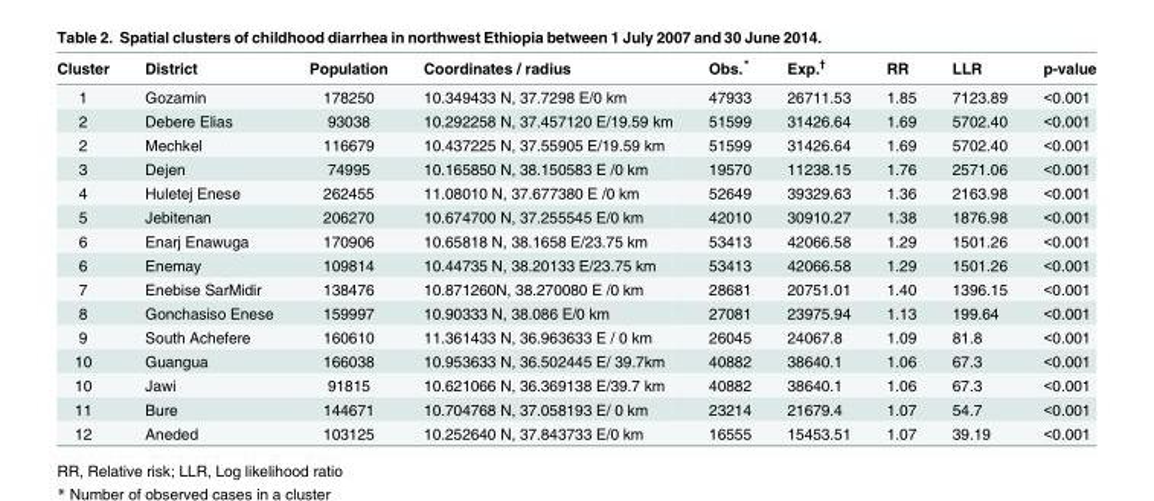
<table><thead><tr><td>Cluster</td><td>District</td><td>Population</td><td>Coordinates / radius</td><td>Obs.*</td><td>Exp.<sup>†</sup></td><td>RR</td><td>LLR</td><td>p-value</td></tr></thead><tbody><tr><td>1</td><td>Gozamin</td><td>178250</td><td>10.349433 N, 37.7298 E/0 km</td><td>47933</td><td>26711.53</td><td>1.85</td><td>7123.89</td><td>&lt;0.001</td></tr><tr><td>2</td><td>Debere Elias</td><td>93038</td><td>10.292258 N, 37.457120 E/19.59 km</td><td>51599</td><td>31426.64</td><td>1.69</td><td>5702.40</td><td>&lt;0.001</td></tr><tr><td>2</td><td>Mechkel</td><td>116679</td><td>10.437225 N, 37.55905 E/19.59 km</td><td>51599</td><td>31426.64</td><td>1.69</td><td>5702.40</td><td>&lt;0.001</td></tr><tr><td>3</td><td>Dejen</td><td>74995</td><td>10.165850 N, 38.150583 E /0 km</td><td>19570</td><td>11238.15</td><td>1.76</td><td>2571.06</td><td>&lt;0.001</td></tr><tr><td>4</td><td>Huletej Enese</td><td>262455</td><td>11.08010 N, 37.677380 E /0 km</td><td>52649</td><td>39329.63</td><td>1.36</td><td>2163.98</td><td>&lt;0.001</td></tr><tr><td>5</td><td>Jebitenan</td><td>206270</td><td>10.674700 N, 37.255545 E/0 km</td><td>42010</td><td>30910.27</td><td>1.38</td><td>1876.98</td><td>&lt;0.001</td></tr><tr><td>6</td><td>Enarj Enawuga</td><td>170906</td><td>10.65818 N, 38.1658 E/23.75 km</td><td>53413</td><td>42066.58</td><td>1.29</td><td>1501.26</td><td>&lt;0.001</td></tr><tr><td>6</td><td>Enemay</td><td>109814</td><td>10.44735 N, 38.20133 E/23.75 km</td><td>53413</td><td>42066.58</td><td>1.29</td><td>1501.26</td><td>&lt;0.001</td></tr><tr><td>7</td><td>Enebise SarMidir</td><td>138476</td><td>10.871260N, 38.270080 E /0 km</td><td>28681</td><td>20751.01</td><td>1.40</td><td>1396.15</td><td>&lt;0.001</td></tr><tr><td>8</td><td>Gonchasiso Enese</td><td>159997</td><td>10.90333 N, 38.086 E/0 km</td><td>27081</td><td>23975.94</td><td>1.13</td><td>199.64</td><td>&lt;0.001</td></tr><tr><td>9</td><td>South Achefere</td><td>160610</td><td>11.361433 N, 36.963633 E / 0 km</td><td>26045</td><td>24067.8</td><td>1.09</td><td>81.8</td><td>&lt;0.001</td></tr><tr><td>10</td><td>Guangua</td><td>166038</td><td>10.953633 N, 36.502445 E/ 39.7km</td><td>40882</td><td>38640.1</td><td>1.06</td><td>67.3</td><td>&lt;0.001</td></tr><tr><td>10</td><td>Jawi</td><td>91815</td><td>10.621066 N, 36.369138 E/39.7 km</td><td>40882</td><td>38640.1</td><td>1.06</td><td>67.3</td><td>&lt;0.001</td></tr><tr><td>11</td><td>Bure</td><td>144671</td><td>10.704768 N, 37.058193 E/ 0 km</td><td>23214</td><td>21679.4</td><td>1.07</td><td>54.7</td><td>&lt;0.001</td></tr><tr><td>12</td><td>Aneded</td><td>103125</td><td>10.252640 N, 37.843733 E/0 km</td><td>16555</td><td>15453.51</td><td>1.07</td><td>39.19</td><td>&lt;0.001</td></tr></tbody></table>